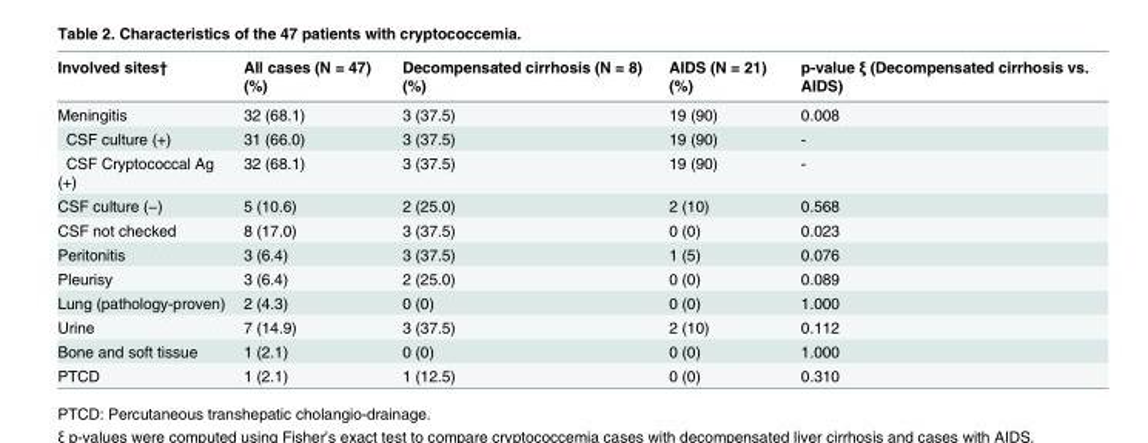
<table><thead><tr><td>Involved sites†</td><td>All cases (N = 47) (%)</td><td>Decompensated cirrhosis (N = 8) (%)</td><td>AIDS (N = 21) (%)</td><td>p-value ξ (Decompensated cirrhosis vs. AIDS)</td></tr></thead><tbody><tr><td>Meningitis</td><td>32 (68.1)</td><td>3 (37.5)</td><td>19 (90)</td><td>0.008</td></tr><tr><td>CSF culture (+)</td><td>31 (66.0)</td><td>3 (37.5)</td><td>19 (90)</td><td>-</td></tr><tr><td>CSF Cryptococcal Ag (+)</td><td>32 (68.1)</td><td>3 (37.5)</td><td>19 (90)</td><td>-</td></tr><tr><td>CSF culture (−)</td><td>5 (10.6)</td><td>2 (25.0)</td><td>2 (10)</td><td>0.568</td></tr><tr><td>CSF not checked</td><td>8 (17.0)</td><td>3 (37.5)</td><td>0 (0)</td><td>0.023</td></tr><tr><td>Peritonitis</td><td>3 (6.4)</td><td>3 (37.5)</td><td>1 (5)</td><td>0.076</td></tr><tr><td>Pleurisy</td><td>3 (6.4)</td><td>2 (25.0)</td><td>0 (0)</td><td>0.089</td></tr><tr><td>Lung (pathology-proven)</td><td>2 (4.3)</td><td>0 (0)</td><td>0 (0)</td><td>1.000</td></tr><tr><td>Urine</td><td>7 (14.9)</td><td>3 (37.5)</td><td>2 (10)</td><td>0.112</td></tr><tr><td>Bone and soft tissue</td><td>1 (2.1)</td><td>0 (0)</td><td>0 (0)</td><td>1.000</td></tr><tr><td>PTCD</td><td>1 (2.1)</td><td>1 (12.5)</td><td>0 (0)</td><td>0.310</td></tr></tbody></table>